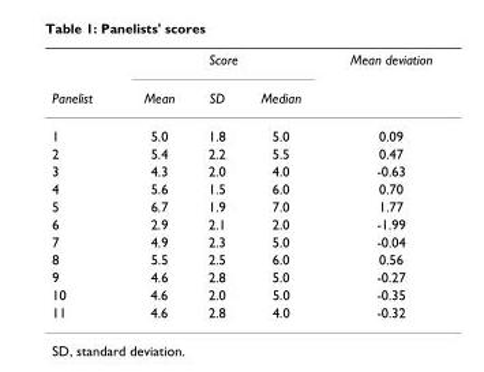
<table><thead><tr><td rowspan="2">Panelist</td><td colspan="3">Score</td><td rowspan="2">Mean deviation</td></tr><tr><td>Mean</td><td>SD</td><td>Median</td></tr></thead><tbody><tr><td>1</td><td>5.0</td><td>1.8</td><td>5.0</td><td>0.09</td></tr><tr><td>2</td><td>5.4</td><td>2.2</td><td>5.5</td><td>0.47</td></tr><tr><td>3</td><td>4.3</td><td>2.0</td><td>4.0</td><td>-0.63</td></tr><tr><td>4</td><td>5.6</td><td>1.5</td><td>6.0</td><td>0.70</td></tr><tr><td>5</td><td>6.7</td><td>1.9</td><td>7.0</td><td>1.77</td></tr><tr><td>6</td><td>2.9</td><td>2.1</td><td>2.0</td><td>-1.99</td></tr><tr><td>7</td><td>4.9</td><td>2.3</td><td>5.0</td><td>-0.04</td></tr><tr><td>8</td><td>5.5</td><td>2.5</td><td>6.0</td><td>0.56</td></tr><tr><td>9</td><td>4.6</td><td>2.8</td><td>5.0</td><td>-0.27</td></tr><tr><td>10</td><td>4.6</td><td>2.0</td><td>5.0</td><td>-0.35</td></tr><tr><td>11</td><td>4.6</td><td>2.8</td><td>4.0</td><td>-0.32</td></tr></tbody></table>